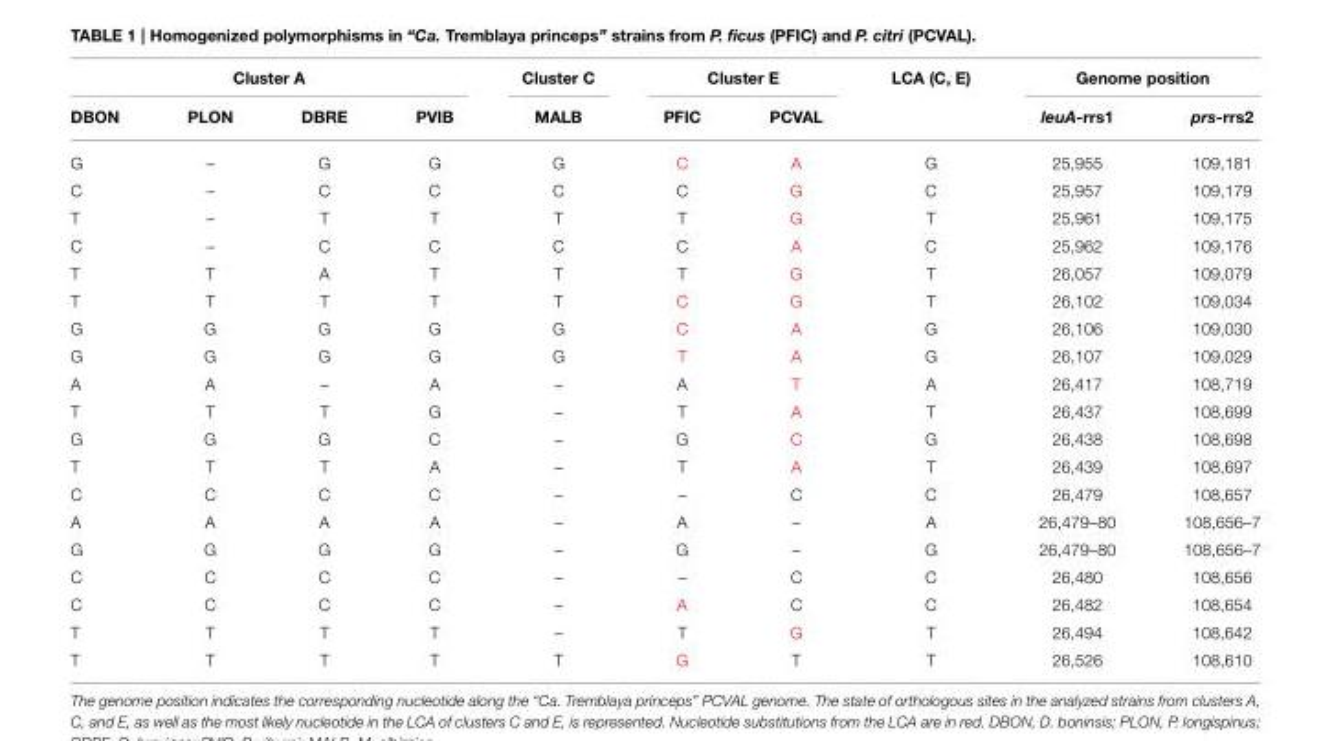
<table><thead><tr><td colspan="4">Cluster A</td><td rowspan="2">Cluster C MALB</td><td colspan="2">Cluster E</td><td rowspan="2">LCA (C, E)</td><td colspan="2">Genome position</td></tr><tr><td>DBON</td><td>PLON</td><td>DBRE</td><td>PVIB</td><td>PFIC</td><td>PCVAL</td><td>leuA-rrs1</td><td>prs-rrs2</td></tr></thead><tbody><tr><td>G</td><td>–</td><td>G</td><td>G</td><td>G</td><td>C</td><td>A</td><td>G</td><td>25,955</td><td>109,181</td></tr><tr><td>C</td><td>–</td><td>C</td><td>C</td><td>C</td><td>C</td><td>G</td><td>C</td><td>25,957</td><td>109,179</td></tr><tr><td>T</td><td>–</td><td>T</td><td>T</td><td>T</td><td>T</td><td>G</td><td>T</td><td>25,961</td><td>109,175</td></tr><tr><td>C</td><td>–</td><td>C</td><td>C</td><td>C</td><td>C</td><td>A</td><td>C</td><td>25,962</td><td>109,176</td></tr><tr><td>T</td><td>T</td><td>A</td><td>T</td><td>T</td><td>T</td><td>G</td><td>T</td><td>26,057</td><td>109,079</td></tr><tr><td>T</td><td>T</td><td>T</td><td>T</td><td>T</td><td>C</td><td>G</td><td>T</td><td>26,102</td><td>109,034</td></tr><tr><td>G</td><td>G</td><td>G</td><td>G</td><td>G</td><td>C</td><td>A</td><td>G</td><td>26,106</td><td>109,030</td></tr><tr><td>G</td><td>G</td><td>G</td><td>G</td><td>G</td><td>T</td><td>A</td><td>G</td><td>26,107</td><td>109,029</td></tr><tr><td>A</td><td>A</td><td>–</td><td>A</td><td>–</td><td>A</td><td>T</td><td>A</td><td>26,417</td><td>108,719</td></tr><tr><td>T</td><td>T</td><td>T</td><td>G</td><td>–</td><td>T</td><td>A</td><td>T</td><td>26,437</td><td>108,699</td></tr><tr><td>G</td><td>G</td><td>G</td><td>C</td><td>–</td><td>G</td><td>C</td><td>G</td><td>26,438</td><td>108,698</td></tr><tr><td>T</td><td>T</td><td>T</td><td>A</td><td>–</td><td>T</td><td>A</td><td>T</td><td>26,439</td><td>108,697</td></tr><tr><td>C</td><td>C</td><td>C</td><td>C</td><td>–</td><td>–</td><td>C</td><td>C</td><td>26,479</td><td>108,657</td></tr><tr><td>A</td><td>A</td><td>A</td><td>A</td><td>–</td><td>A</td><td>–</td><td>A</td><td>26,479–80</td><td>108,656–7</td></tr><tr><td>G</td><td>G</td><td>G</td><td>G</td><td>–</td><td>G</td><td>–</td><td>G</td><td>26,479–80</td><td>108,656–7</td></tr><tr><td>C</td><td>C</td><td>C</td><td>C</td><td>–</td><td>–</td><td>C</td><td>C</td><td>26,480</td><td>108,656</td></tr><tr><td>C</td><td>C</td><td>C</td><td>C</td><td>–</td><td>A</td><td>C</td><td>C</td><td>26,482</td><td>108,654</td></tr><tr><td>T</td><td>T</td><td>T</td><td>T</td><td>–</td><td>T</td><td>G</td><td>T</td><td>26,494</td><td>108,642</td></tr><tr><td>T</td><td>T</td><td>T</td><td>T</td><td>T</td><td>G</td><td>T</td><td>T</td><td>26,526</td><td>108,610</td></tr></tbody></table>